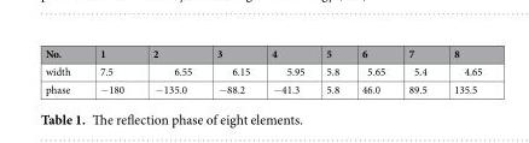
<table><thead><tr><td>No.</td><td>1</td><td>2</td><td>3</td><td>4</td><td>5</td><td>6</td><td>7</td><td>8</td></tr></thead><tbody><tr><td>width</td><td>7.5</td><td>6.55</td><td>6.15</td><td>5.95</td><td>5.8</td><td>5.65</td><td>5.4</td><td>4.65</td></tr><tr><td>phase</td><td>−180</td><td>−135.0</td><td>−88.2</td><td>−41.3</td><td>5.8</td><td>46.0</td><td>89.5</td><td>135.5</td></tr></tbody></table>